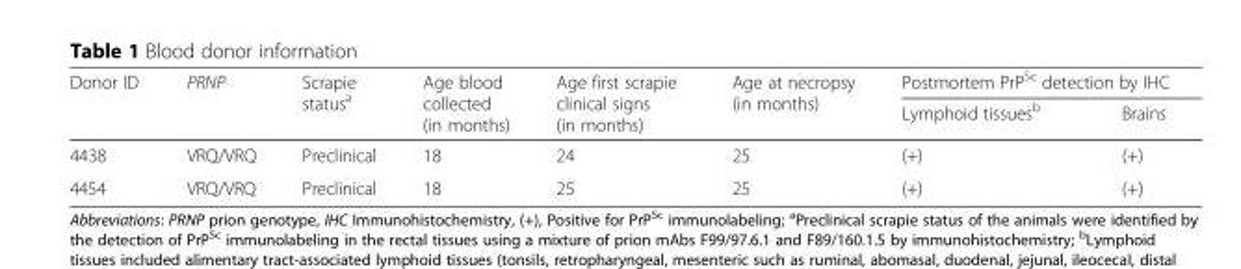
<table><thead><tr><td rowspan="2">Donor ID</td><td rowspan="2">PRNP</td><td rowspan="2">Scrapie status<sup>a</sup></td><td rowspan="2">Age blood collected (in months)</td><td rowspan="2">Age first scrapie clinical signs (in months)</td><td rowspan="2">Age at necropsy (in months)</td><td colspan="2">Postmortem PrP<sup>Sc</sup> detection by IHC</td></tr><tr><td>Lymphoid tissues<sup>b</sup></td><td>Brains</td></tr></thead><tbody><tr><td>4438</td><td>VRQ/VRQ</td><td>Preclinical</td><td>18</td><td>24</td><td>25</td><td>(+)</td><td>(+)</td></tr><tr><td>4454</td><td>VRQ/VRQ</td><td>Preclinical</td><td>18</td><td>25</td><td>25</td><td>(+)</td><td>(+)</td></tr></tbody></table>